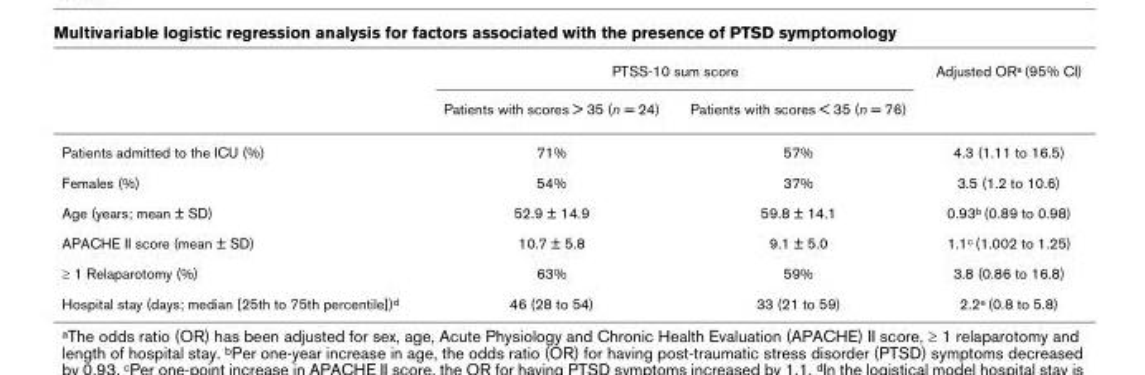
<table><thead><tr><td rowspan="2"></td><td colspan="2">PTSS-10 sum score</td><td rowspan="2">Adjusted OR<sup>a</sup> (95% CI)</td></tr><tr><td>Patients with scores &gt; 35 (n = 24)</td><td>Patients with scores &lt; 35 (n = 76)</td></tr></thead><tbody><tr><td>Patients admitted to the ICU (%)</td><td>71%</td><td>57%</td><td>4.3 (1.11 to 16.5)</td></tr><tr><td>Females (%)</td><td>54%</td><td>37%</td><td>3.5 (1.2 to 10.6)</td></tr><tr><td>Age (years; mean ± SD)</td><td>52.9 ± 14.9</td><td>59.8 ± 14.1</td><td>0.93<sup>b</sup> (0.89 to 0.98)</td></tr><tr><td>APACHE II score (mean ± SD)</td><td>10.7 ± 5.8</td><td>9.1 ± 5.0</td><td>1.1<sup>c</sup> (1.002 to 1.25)</td></tr><tr><td>≥ 1 Relaparotomy (%)</td><td>63%</td><td>59%</td><td>3.8 (0.86 to 16.8)</td></tr><tr><td>Hospital stay (days; median [25th to 75th percentile])<sup>d</sup></td><td>46 (28 to 54)</td><td>33 (21 to 59)</td><td>2.2<sup>e</sup> (0.8 to 5.8)</td></tr></tbody></table>